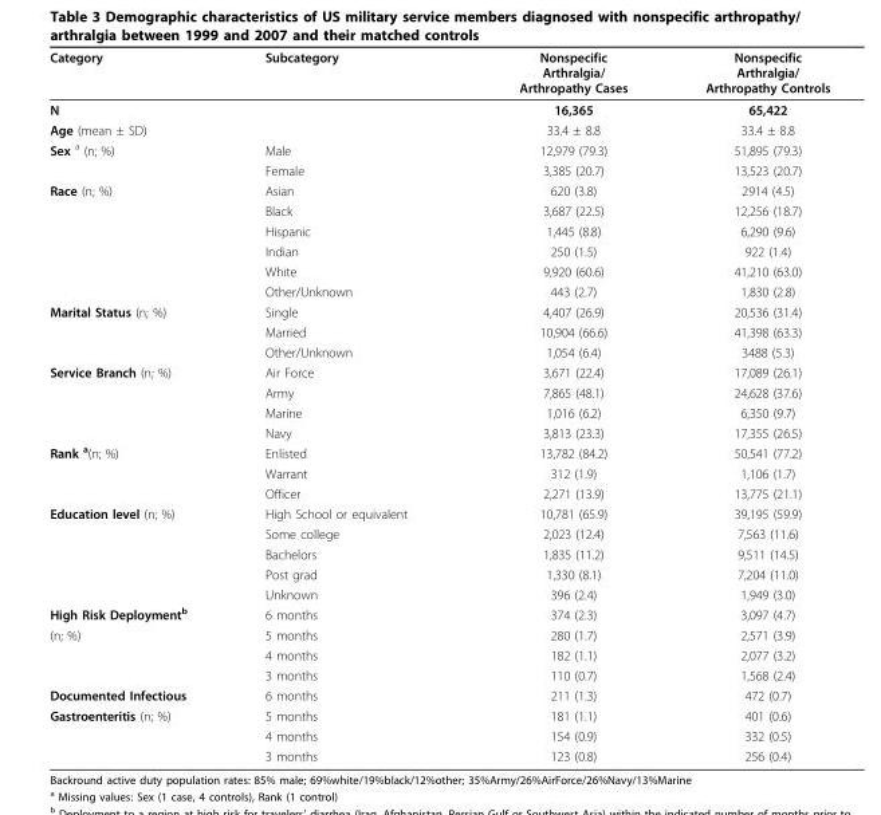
<table><thead><tr><td>Category</td><td>Subcategory</td><td>Nonspecific Arthralgia/ Arthropathy Cases</td><td>Nonspecific Arthralgia/ Arthropathy Controls</td></tr></thead><tbody><tr><td>N</td><td></td><td>16,365</td><td>65,422</td></tr><tr><td>Age (mean ± SD)</td><td></td><td>33.4 ± 8.8</td><td>33.4 ± 8.8</td></tr><tr><td rowspan="2">Sex <sup>a</sup> (n; %)</td><td>Male</td><td>12,979 (79.3)</td><td>51,895 (79.3)</td></tr><tr><td>Female</td><td>3,385 (20.7)</td><td>13,523 (20.7)</td></tr><tr><td rowspan="6">Race (n; %)</td><td>Asian</td><td>620 (3.8)</td><td>2914 (4.5)</td></tr><tr><td>Black</td><td>3,687 (22.5)</td><td>12,256 (18.7)</td></tr><tr><td>Hispanic</td><td>1,445 (8.8)</td><td>6,290 (9.6)</td></tr><tr><td>Indian</td><td>250 (1.5)</td><td>922 (1.4)</td></tr><tr><td>White</td><td>9,920 (60.6)</td><td>41,210 (63.0)</td></tr><tr><td>Other/Unknown</td><td>443 (2.7)</td><td>1,830 (2.8)</td></tr><tr><td rowspan="3">Marital Status (n; %)</td><td>Single</td><td>4,407 (26.9)</td><td>20,536 (31.4)</td></tr><tr><td>Married</td><td>10,904 (66.6)</td><td>41,398 (63.3)</td></tr><tr><td>Other/Unknown</td><td>1,054 (6.4)</td><td>3488 (5.3)</td></tr><tr><td rowspan="4">Service Branch (n; %)</td><td>Air Force</td><td>3,671 (22.4)</td><td>17,089 (26.1)</td></tr><tr><td>Army</td><td>7,865 (48.1)</td><td>24,628 (37.6)</td></tr><tr><td>Marine</td><td>1,016 (6.2)</td><td>6,350 (9.7)</td></tr><tr><td>Navy</td><td>3,813 (23.3)</td><td>17,355 (26.5)</td></tr><tr><td rowspan="3">Rank <sup>a</sup>(n; %)</td><td>Enlisted</td><td>13,782 (84.2)</td><td>50,541 (77.2)</td></tr><tr><td>Warrant</td><td>312 (1.9)</td><td>1,106 (1.7)</td></tr><tr><td>Officer</td><td>2,271 (13.9)</td><td>13,775 (21.1)</td></tr><tr><td rowspan="5">Education level (n; %)</td><td>High School or equivalent</td><td>10,781 (65.9)</td><td>39,195 (59.9)</td></tr><tr><td>Some college</td><td>2,023 (12.4)</td><td>7,563 (11.6)</td></tr><tr><td>Bachelors</td><td>1,835 (11.2)</td><td>9,511 (14.5)</td></tr><tr><td>Post grad</td><td>1,330 (8.1)</td><td>7,204 (11.0)</td></tr><tr><td>Unknown</td><td>396 (2.4)</td><td>1,949 (3.0)</td></tr><tr><td>High Risk Deployment<sup>b</sup></td><td>6 months</td><td>374 (2.3)</td><td>3,097 (4.7)</td></tr><tr><td rowspan="3">(n; %)</td><td>5 months</td><td>280 (1.7)</td><td>2,571 (3.9)</td></tr><tr><td>4 months</td><td>182 (1.1)</td><td>2,077 (3.2)</td></tr><tr><td>3 months</td><td>110 (0.7)</td><td>1,568 (2.4)</td></tr><tr><td>Documented Infectious</td><td>6 months</td><td>211 (1.3)</td><td>472 (0.7)</td></tr><tr><td rowspan="3">Gastroenteritis (n; %)</td><td>5 months</td><td>181 (1.1)</td><td>401 (0.6)</td></tr><tr><td>4 months</td><td>154 (0.9)</td><td>332 (0.5)</td></tr><tr><td>3 months</td><td>123 (0.8)</td><td>256 (0.4)</td></tr></tbody></table>